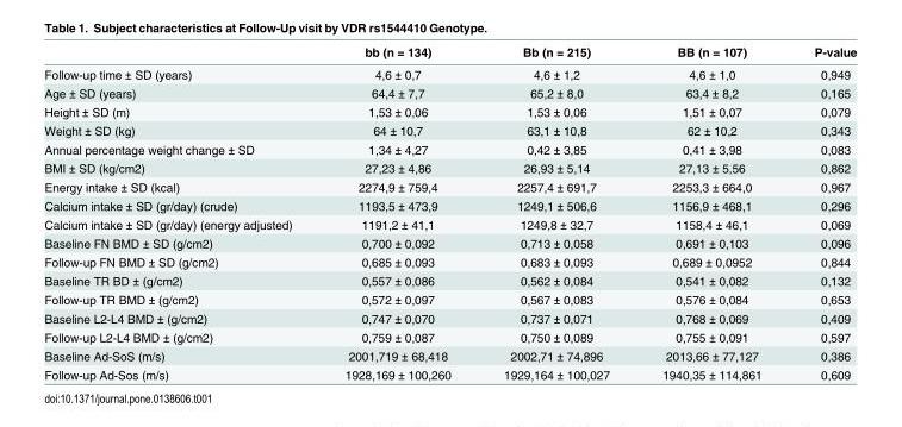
<table><thead><tr><td></td><td>bb (n = 134)</td><td>Bb (n = 215)</td><td>BB (n = 107)</td><td>P-value</td></tr></thead><tbody><tr><td>Follow-up time ± SD (years)</td><td>4,6 ± 0,7</td><td>4,6 ± 1,2</td><td>4,6 ± 1,0</td><td>0,949</td></tr><tr><td>Age ± SD (years)</td><td>64,4 ± 7,7</td><td>65,2 ± 8,0</td><td>63,4 ± 8,2</td><td>0,165</td></tr><tr><td>Height ± SD (m)</td><td>1,53 ± 0,06</td><td>1,53 ± 0,06</td><td>1,51 ± 0,07</td><td>0,079</td></tr><tr><td>Weight ± SD (kg)</td><td>64 ± 10,7</td><td>63,1 ± 10,8</td><td>62 ± 10,2</td><td>0,343</td></tr><tr><td>Annual percentage weight change ± SD</td><td>1,34 ± 4,27</td><td>0,42 ± 3,85</td><td>0,41 ± 3,98</td><td>0,083</td></tr><tr><td>BMI ± SD (kg/cm2)</td><td>27,23 ± 4,86</td><td>26,93 ± 5,14</td><td>27,13 ± 5,56</td><td>0,862</td></tr><tr><td>Energy intake ± SD (kcal)</td><td>2274,9 ± 759,4</td><td>2257,4 ± 691,7</td><td>2253,3 ± 664,0</td><td>0,967</td></tr><tr><td>Calcium intake ± SD (gr/day) (crude)</td><td>1193,5 ± 473,9</td><td>1249,1 ± 506,6</td><td>1156,9 ± 468,1</td><td>0,296</td></tr><tr><td>Calcium intake ± SD (gr/day) (energy adjusted)</td><td>1191,2 ± 41,1</td><td>1249,8 ± 32,7</td><td>1158,4 ± 46,1</td><td>0,069</td></tr><tr><td>Baseline FN BMD ± SD (g/cm2)</td><td>0,700 ± 0,092</td><td>0,713 ± 0,058</td><td>0,691 ± 0,103</td><td>0,096</td></tr><tr><td>Follow-up FN BMD ± SD (g/cm2)</td><td>0,685 ± 0,093</td><td>0,683 ± 0,093</td><td>0,689 ± 0,0952</td><td>0,844</td></tr><tr><td>Baseline TR BD ± (g/cm2)</td><td>0,557 ± 0,086</td><td>0,562 ± 0,084</td><td>0,541 ± 0,082</td><td>0,132</td></tr><tr><td>Follow-up TR BMD ± (g/cm2)</td><td>0,572 ± 0,097</td><td>0,567 ± 0,083</td><td>0,576 ± 0,084</td><td>0,653</td></tr><tr><td>Baseline L2-L4 BMD ± (g/cm2)</td><td>0,747 ± 0,070</td><td>0,737 ± 0,071</td><td>0,768 ± 0,069</td><td>0,409</td></tr><tr><td>Follow-up L2-L4 BMD ± (g/cm2)</td><td>0,759 ± 0,087</td><td>0,750 ± 0,089</td><td>0,755 ± 0,091</td><td>0,597</td></tr><tr><td>Baseline Ad-SoS (m/s)</td><td>2001,719 ± 68,418</td><td>2002,71 ± 74,896</td><td>2013,66 ± 77,127</td><td>0,386</td></tr><tr><td>Follow-up Ad-Sos (m/s)</td><td>1928,169 ± 100,260</td><td>1929,164 ± 100,027</td><td>1940,35 ± 114,861</td><td>0,609</td></tr></tbody></table>